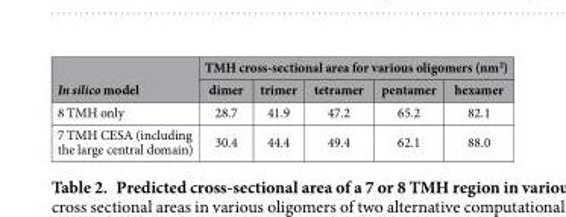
<table><thead><tr><td rowspan="2">In silico model</td><td colspan="5">TMH cross-sectional area for various oligomers (nm<sup>2</sup>)</td></tr><tr><td>dimer</td><td>trimer</td><td>tetramer</td><td>pentamer</td><td>hexamer</td></tr></thead><tbody><tr><td>8 TMH only</td><td>28.7</td><td>41.9</td><td>47.2</td><td>65.2</td><td>82.1</td></tr><tr><td>7 TMH CESA (including the large central domain)</td><td>30.4</td><td>44.4</td><td>49.4</td><td>62.1</td><td>88.0</td></tr></tbody></table>